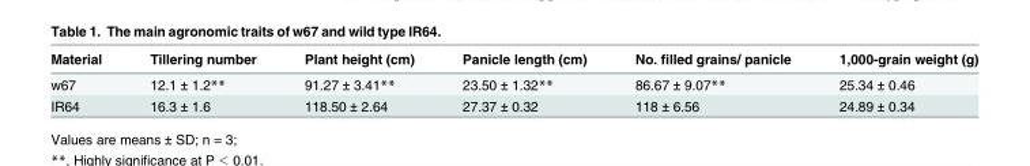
<table><thead><tr><td>Material</td><td>Tillering number</td><td>Plant height (cm)</td><td>Panicle length (cm)</td><td>No. filled grains/ panicle</td><td>1,000-grain weight (g)</td></tr></thead><tbody><tr><td>w67</td><td>12.1 ± 1.2**</td><td>91.27 ± 3.41**</td><td>23.50 ± 1.32**</td><td>86.67 ± 9.07**</td><td>25.34 ± 0.46</td></tr><tr><td>IR64</td><td>16.3 ± 1.6</td><td>118.50 ± 2.64</td><td>27.37 ± 0.32</td><td>118 ± 6.56</td><td>24.89 ± 0.34</td></tr></tbody></table>